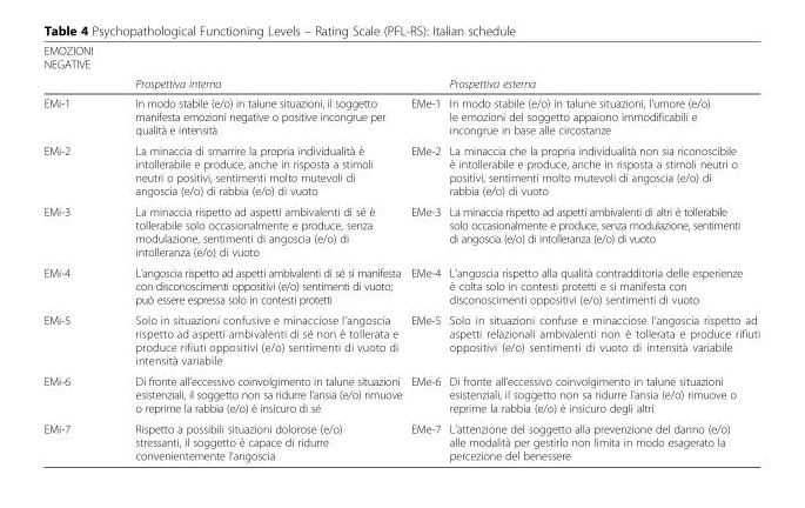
<table><thead><tr><td rowspan="2">EMOZIONI NEGATIVE</td><td rowspan="2">Prospettiva interna</td><td rowspan="2"></td><td rowspan="2">Prospettiva esterna</td></tr><tr></tr></thead><tbody><tr><td>EMi-1</td><td>In modo stabile (e/o) in talune situazioni, il soggetto manifesta emozioni negative o positive incongrue per qualità e intensità</td><td>EMe-1</td><td>In modo stabile (e/o) in talune situazioni, l’umore (e/o) le emozioni del soggetto appaiono immodificabili e incongrue in base alle circostanze</td></tr><tr><td>EMi-2</td><td>La minaccia di smarrire la propria individualità è intollerabile e produce, anche in risposta a stimoli neutri o positivi, sentimenti molto mutevoli di angoscia (e/o) di rabbia (e/o) di vuoto</td><td>EMe-2</td><td>La minaccia che la propria individualità non sia riconoscibile è intollerabile e produce, anche in risposta a stimoli neutri o positivi, sentimenti molto mutevoli di angoscia (e/o) di rabbia (e/o) di vuoto</td></tr><tr><td>EMi-3</td><td>La minaccia rispetto ad aspetti ambivalenti di sé è tollerabile solo occasionalmente e produce, senza modulazione, sentimenti di angoscia (e/o) di intolleranza (e/o) di vuoto</td><td>EMe-3</td><td>La minaccia rispetto ad aspetti ambivalenti di altri è tollerabile solo occasionalmente e produce, senza modulazione, sentimenti di angoscia (e/o) di intolleranza (e/o) di vuoto</td></tr><tr><td>EMi-4</td><td>L’angoscia rispetto ad aspetti ambivalenti di sé si manifesta con disconoscimenti oppositivi (e/o) sentimenti di vuoto; può essere espressa solo in contesti protetti</td><td>EMe-4</td><td>L’angoscia rispetto alla qualità contradditoria delle esperienze è colta solo in contesti protetti e si manifesta con disconoscimenti oppositivi (e/o) sentimenti di vuoto</td></tr><tr><td>EMi-5</td><td>Solo in situazioni confusive e minacciose l’angoscia rispetto ad aspetti ambivalenti di sé non è tollerata e produce rifiuti oppositivi (e/o) sentimenti di vuoto di intensità variabile</td><td>EMe-5</td><td>Solo in situazioni confuse e minacciose l’angoscia rispetto ad aspetti relazionali ambivalenti non è tollerata e produce rifiuti oppositivi (e/o) sentimenti di vuoto di intensità variabile</td></tr><tr><td>EMi-6</td><td>Di fronte all’eccessivo coinvolgimento in talune situazioni esistenziali, il soggetto non sa ridurre l’ansia (e/o) rimuove o reprime la rabbia (e/o) è insicuro di sé</td><td>EMe-6</td><td>Di fronte all’eccessivo coinvolgimento in talune situazioni esistenziali, il soggetto non sa ridurre l’ansia (e/o) rimuove o reprime la rabbia (e/o) è insicuro degli altri</td></tr><tr><td>EMi-7</td><td>Rispetto a possibili situazioni dolorose (e/o) stressanti, il soggetto è capace di ridurre convenientemente l’angoscia</td><td>EMe-7</td><td>L’attenzione del soggetto alla prevenzione del danno (e/o) alle modalità per gestirlo non limita in modo esagerato la percezione del benessere</td></tr></tbody></table>